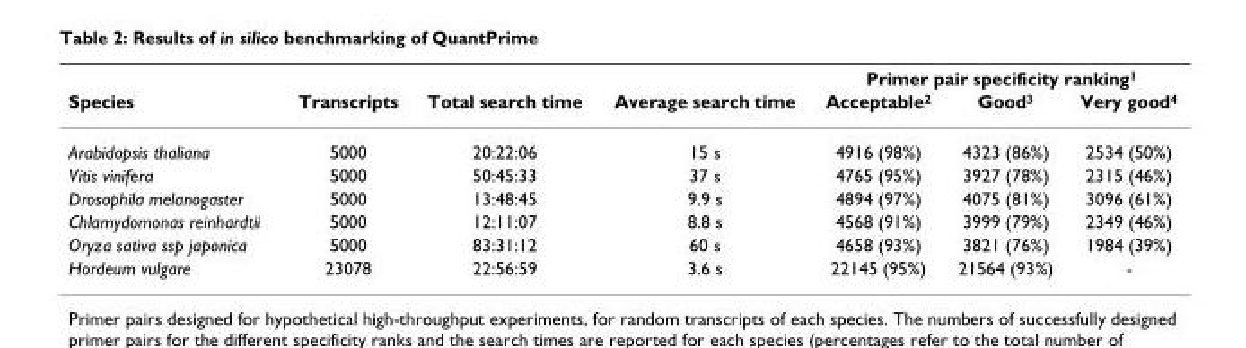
<table><thead><tr><td rowspan="2">Species</td><td rowspan="2">Transcripts</td><td rowspan="2">Total search time</td><td rowspan="2">Average search time</td><td colspan="3">Primer pair specificity ranking<sup>1</sup></td></tr><tr><td>Acceptable<sup>2</sup></td><td>Good<sup>3</sup></td><td>Very good<sup>4</sup></td></tr></thead><tbody><tr><td>Arabidopsis thaliana</td><td>5000</td><td>20:22:06</td><td>15 s</td><td>4916 (98%)</td><td>4323 (86%)</td><td>2534 (50%)</td></tr><tr><td>Vitis vinifera</td><td>5000</td><td>50:45:33</td><td>37 s</td><td>4765 (95%)</td><td>3927 (78%)</td><td>2315 (46%)</td></tr><tr><td>Drosophila melanogaster</td><td>5000</td><td>13:48:45</td><td>9.9 s</td><td>4894 (97%)</td><td>4075 (81%)</td><td>3096 (61%)</td></tr><tr><td>Chlamydomonas reinhardtii</td><td>5000</td><td>12:11:07</td><td>8.8 s</td><td>4568 (91%)</td><td>3999 (79%)</td><td>2349 (46%)</td></tr><tr><td>Oryza sativa ssp japonica</td><td>5000</td><td>83:31:12</td><td>60 s</td><td>4658 (93%)</td><td>3821 (76%)</td><td>1984 (39%)</td></tr><tr><td>Hordeum vulgare</td><td>23078</td><td>22:56:59</td><td>3.6 s</td><td>22145 (95%)</td><td>21564 (93%)</td><td>-</td></tr></tbody></table>